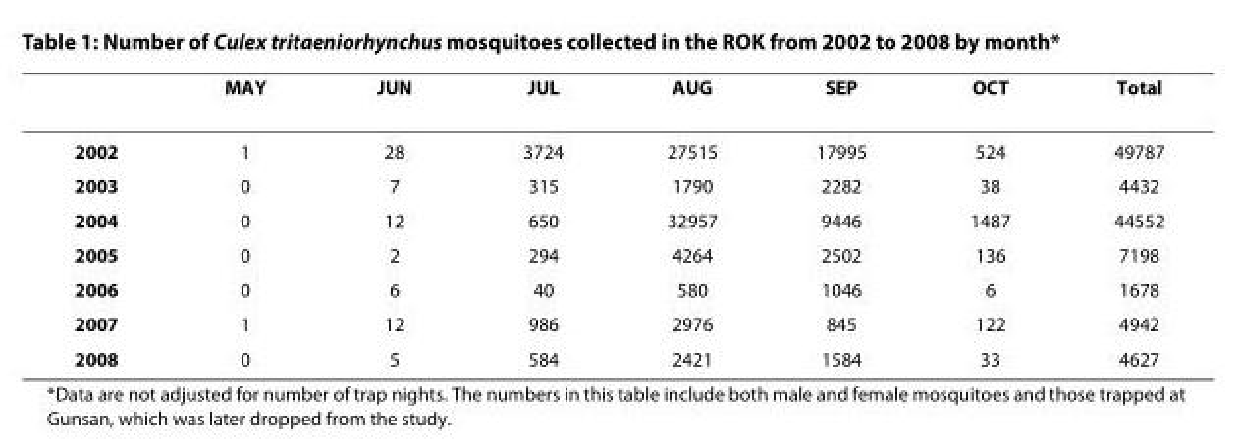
<table><thead><tr><td></td><td>MAY</td><td>JUN</td><td>JUL</td><td>AUG</td><td>SEP</td><td>OCT</td><td>Total</td></tr></thead><tbody><tr><td>2002</td><td>1</td><td>28</td><td>3724</td><td>27515</td><td>17995</td><td>524</td><td>49787</td></tr><tr><td>2003</td><td>0</td><td>7</td><td>315</td><td>1790</td><td>2282</td><td>38</td><td>4432</td></tr><tr><td>2004</td><td>0</td><td>12</td><td>650</td><td>32957</td><td>9446</td><td>1487</td><td>44552</td></tr><tr><td>2005</td><td>0</td><td>2</td><td>294</td><td>4264</td><td>2502</td><td>136</td><td>7198</td></tr><tr><td>2006</td><td>0</td><td>6</td><td>40</td><td>580</td><td>1046</td><td>6</td><td>1678</td></tr><tr><td>2007</td><td>1</td><td>12</td><td>986</td><td>2976</td><td>845</td><td>122</td><td>4942</td></tr><tr><td>2008</td><td>0</td><td>5</td><td>584</td><td>2421</td><td>1584</td><td>33</td><td>4627</td></tr></tbody></table>